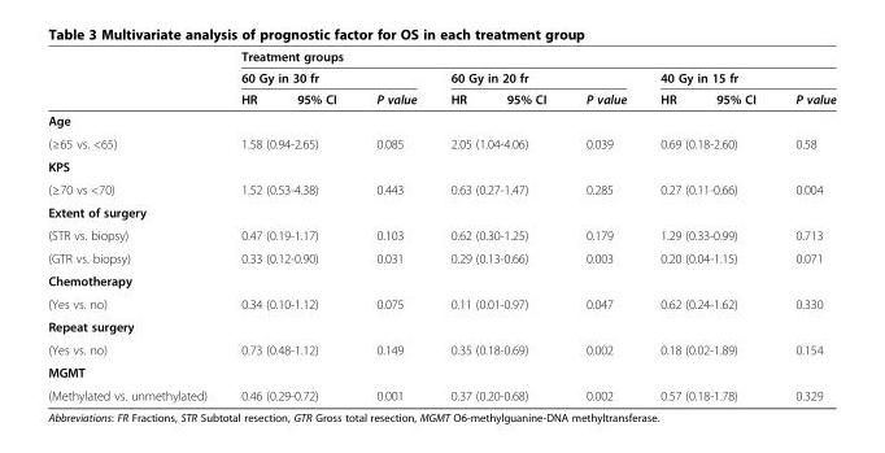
<table><thead><tr><td rowspan="3"></td><td colspan="9">Treatment groups</td></tr><tr><td colspan="3">60 Gy in 30 fr</td><td colspan="3">60 Gy in 20 fr</td><td colspan="3">40 Gy in 15 fr</td></tr><tr><td>HR</td><td>95% CI</td><td>P value</td><td>HR</td><td>95% CI</td><td>P value</td><td>HR</td><td>95% CI</td><td>P value</td></tr></thead><tbody><tr><td colspan="10">Age</td></tr><tr><td>(≥65 vs. &lt;65)</td><td colspan="2">1.58 (0.94-2.65)</td><td>0.085</td><td colspan="2">2.05 (1.04-4.06)</td><td>0.039</td><td colspan="2">0.69 (0.18-2.60)</td><td>0.58</td></tr><tr><td colspan="10">KPS</td></tr><tr><td>(≥70 vs &lt;70)</td><td colspan="2">1.52 (0.53-4.38)</td><td>0.443</td><td colspan="2">0.63 (0.27-1.47)</td><td>0.285</td><td colspan="2">0.27 (0.11-0.66)</td><td>0.004</td></tr><tr><td colspan="10">Extent of surgery</td></tr><tr><td>(STR vs. biopsy)</td><td colspan="2">0.47 (0.19-1.17)</td><td>0.103</td><td colspan="2">0.62 (0.30-1.25)</td><td>0.179</td><td colspan="2">1.29 (0.33-0.99)</td><td>0.713</td></tr><tr><td>(GTR vs. biopsy)</td><td colspan="2">0.33 (0.12-0.90)</td><td>0.031</td><td colspan="2">0.29 (0.13-0.66)</td><td>0.003</td><td colspan="2">0.20 (0.04-1.15)</td><td>0.071</td></tr><tr><td colspan="10">Chemotherapy</td></tr><tr><td>(Yes vs. no)</td><td colspan="2">0.34 (0.10-1.12)</td><td>0.075</td><td colspan="2">0.11 (0.01-0.97)</td><td>0.047</td><td colspan="2">0.62 (0.24-1.62)</td><td>0.330</td></tr><tr><td colspan="10">Repeat surgery</td></tr><tr><td>(Yes vs. no)</td><td colspan="2">0.73 (0.48-1.12)</td><td>0.149</td><td colspan="2">0.35 (0.18-0.69)</td><td>0.002</td><td colspan="2">0.18 (0.02-1.89)</td><td>0.154</td></tr><tr><td colspan="10">MGMT</td></tr><tr><td>(Methylated vs. unmethylated)</td><td colspan="2">0.46 (0.29-0.72)</td><td>0.001</td><td colspan="2">0.37 (0.20-0.68)</td><td>0.002</td><td colspan="2">0.57 (0.18-1.78)</td><td>0.329</td></tr></tbody></table>